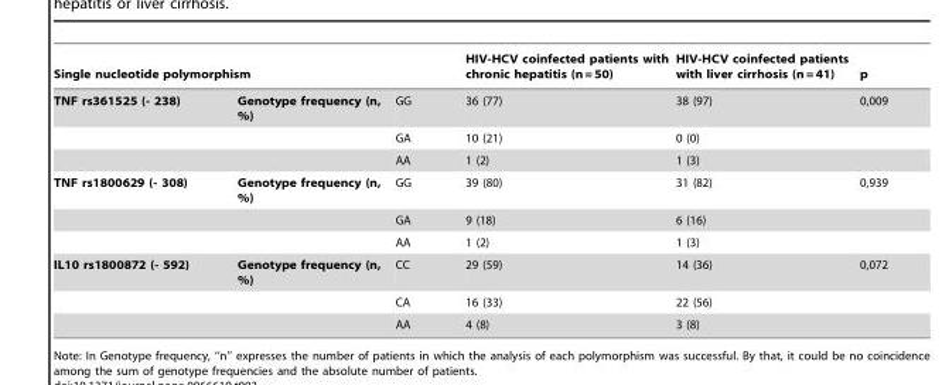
<table><thead><tr><td colspan="3">Single nucleotide polymorphism</td><td rowspan="2">HIV-HCV coinfected patients with chronic hepatitis (n = 50) 36 (77)</td><td rowspan="2">HIV-HCV coinfected patients with liver cirrhosis (n = 41) 38 (97)</td><td rowspan="2">p 0,009</td></tr><tr><td>TNF rs361525 (- 238)</td><td>Genotype frequency (n, %)</td><td>GG</td></tr></thead><tbody><tr><td></td><td></td><td>GA</td><td>10 (21)</td><td>0 (0)</td><td></td></tr><tr><td></td><td></td><td>AA</td><td>1 (2)</td><td>1 (3)</td><td></td></tr><tr><td rowspan="3">TNF rs1800629 (- 308)</td><td>Genotype frequency (n, %)</td><td>GG</td><td>39 (80)</td><td>31 (82)</td><td>0,939</td></tr><tr><td></td><td>GA</td><td>9 (18)</td><td>6 (16)</td><td></td></tr><tr><td></td><td>AA</td><td>1 (2)</td><td>1 (3)</td><td></td></tr><tr><td rowspan="3">IL10 rs1800872 (- 592)</td><td>Genotype frequency (n, %)</td><td>CC</td><td>29 (59)</td><td>14 (36)</td><td>0,072</td></tr><tr><td></td><td>CA</td><td>16 (33)</td><td>22 (56)</td><td></td></tr><tr><td></td><td>AA</td><td>4 (8)</td><td>3 (8)</td><td></td></tr></tbody></table>